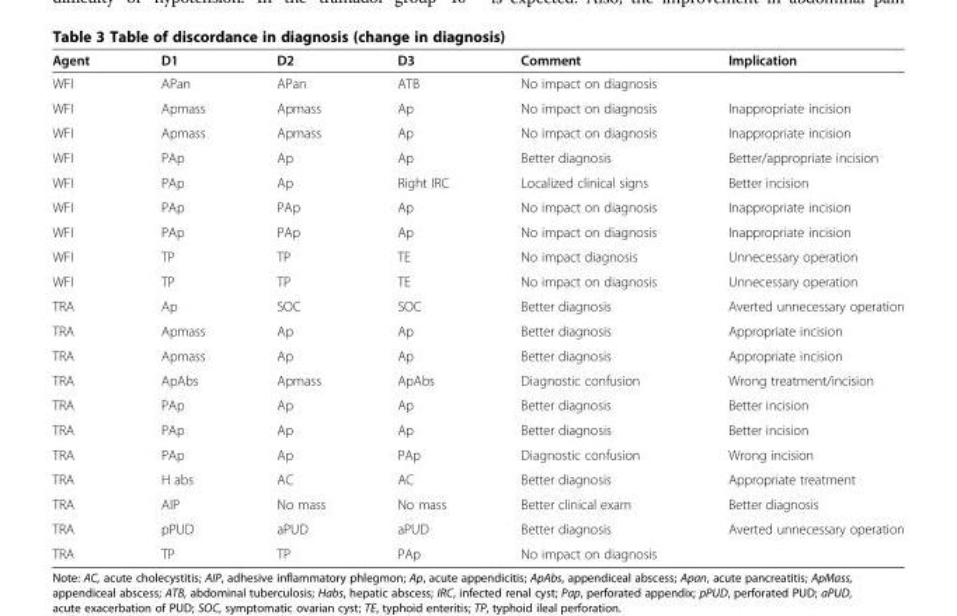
<table><thead><tr><td>Agent</td><td>D1</td><td>D2</td><td>D3</td><td>Comment</td><td>Implication</td></tr></thead><tbody><tr><td>WFI</td><td>APan</td><td>APan</td><td>ATB</td><td>No impact on diagnosis</td><td></td></tr><tr><td>WFI</td><td>Apmass</td><td>Apmass</td><td>Ap</td><td>No impact on diagnosis</td><td>Inappropriate incision</td></tr><tr><td>WFI</td><td>Apmass</td><td>Apmass</td><td>Ap</td><td>No impact on diagnosis</td><td>Inappropriate incision</td></tr><tr><td>WFI</td><td>PAp</td><td>Ap</td><td>Ap</td><td>Better diagnosis</td><td>Better/appropriate incision</td></tr><tr><td>WFI</td><td>PAp</td><td>Ap</td><td>Right IRC</td><td>Localized clinical signs</td><td>Better incision</td></tr><tr><td>WFI</td><td>PAp</td><td>PAp</td><td>Ap</td><td>No impact on diagnosis</td><td>Inappropriate incision</td></tr><tr><td>WFI</td><td>PAp</td><td>PAp</td><td>Ap</td><td>No impact on diagnosis</td><td>Inappropriate incision</td></tr><tr><td>WFI</td><td>TP</td><td>TP</td><td>TE</td><td>No impact diagnosis</td><td>Unnecessary operation</td></tr><tr><td>WFI</td><td>TP</td><td>TP</td><td>TE</td><td>No impact on diagnosis</td><td>Unnecessary operation</td></tr><tr><td>TRA</td><td>Ap</td><td>SOC</td><td>SOC</td><td>Better diagnosis</td><td>Averted unnecessary operation</td></tr><tr><td>TRA</td><td>Apmass</td><td>Ap</td><td>Ap</td><td>Better diagnosis</td><td>Appropriate incision</td></tr><tr><td>TRA</td><td>Apmass</td><td>Ap</td><td>Ap</td><td>Better diagnosis</td><td>Appropriate incision</td></tr><tr><td>TRA</td><td>ApAbs</td><td>Apmass</td><td>ApAbs</td><td>Diagnostic confusion</td><td>Wrong treatment/incision</td></tr><tr><td>TRA</td><td>PAp</td><td>Ap</td><td>Ap</td><td>Better diagnosis</td><td>Better incision</td></tr><tr><td>TRA</td><td>PAp</td><td>Ap</td><td>Ap</td><td>Better diagnosis</td><td>Better incision</td></tr><tr><td>TRA</td><td>PAp</td><td>Ap</td><td>PAp</td><td>Diagnostic confusion</td><td>Wrong incision</td></tr><tr><td>TRA</td><td>H abs</td><td>AC</td><td>AC</td><td>Better diagnosis</td><td>Appropriate treatment</td></tr><tr><td>TRA</td><td>AIP</td><td>No mass</td><td>No mass</td><td>Better clinical exam</td><td>Better diagnosis</td></tr><tr><td>TRA</td><td>pPUD</td><td>aPUD</td><td>aPUD</td><td>Better diagnosis</td><td>Averted unnecessary operation</td></tr><tr><td>TRA</td><td>TP</td><td>TP</td><td>PAp</td><td>No impact on diagnosis</td><td></td></tr></tbody></table>